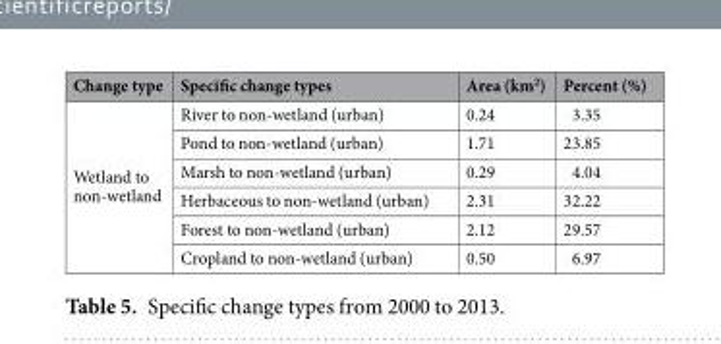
<table><thead><tr><td>Change type</td><td>Specific change types</td><td>Area (km<sup>2</sup>)</td><td>Percent (%)</td></tr></thead><tbody><tr><td rowspan="6">Wetland to non-wetland</td><td>River to non-wetland (urban)</td><td>0.24</td><td>3.35</td></tr><tr><td>Pond to non-wetland (urban)</td><td>1.71</td><td>23.85</td></tr><tr><td>Marsh to non-wetland (urban)</td><td>0.29</td><td>4.04</td></tr><tr><td>Herbaceous to non-wetland (urban)</td><td>2.31</td><td>32.22</td></tr><tr><td>Forest to non-wetland (urban)</td><td>2.12</td><td>29.57</td></tr><tr><td>Cropland to non-wetland (urban)</td><td>0.50</td><td>6.97</td></tr></tbody></table>